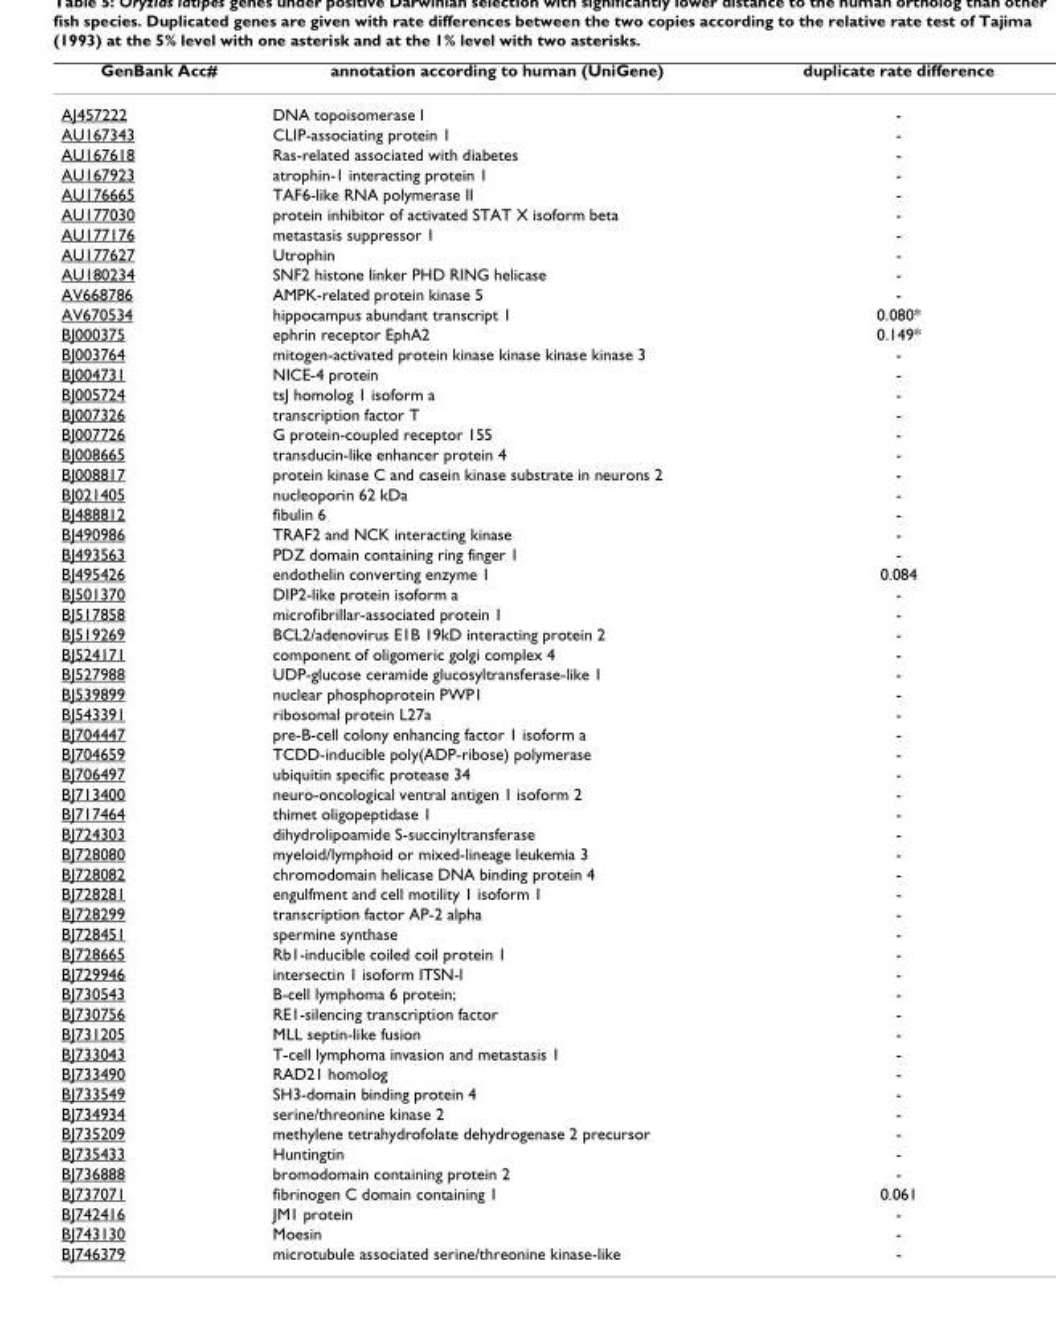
<table><thead><tr><td>GenBank Acc#</td><td>annotation according to human (UniGene)</td><td>duplicate rate difference</td></tr></thead><tbody><tr><td>AJ457222</td><td>DNA topoisomerase I</td><td>-</td></tr><tr><td>AU167343</td><td>CLIP-associating protein 1</td><td>-</td></tr><tr><td>AU167618</td><td>Ras-related associated with diabetes</td><td>-</td></tr><tr><td>AU167923</td><td>atrophin-1 interacting protein 1</td><td>-</td></tr><tr><td>AU176665</td><td>TAF6-like RNA polymerase II</td><td>-</td></tr><tr><td>AU177030</td><td>protein inhibitor of activated STAT X isoform beta</td><td>-</td></tr><tr><td>AU177176</td><td>metastasis suppressor 1</td><td>-</td></tr><tr><td>AU177627</td><td>Utrophin</td><td>-</td></tr><tr><td>AU180234</td><td>SNF2 histone linker PHD RING helicase</td><td>-</td></tr><tr><td>AV668786</td><td>AMPK-related protein kinase 5</td><td>-</td></tr><tr><td>AV670534</td><td>hippocampus abundant transcript 1</td><td>0.080*</td></tr><tr><td>BJ000375</td><td>ephrin receptor EphA2</td><td>0.149*</td></tr><tr><td>BJ003764</td><td>mitogen-activated protein kinase kinase kinase kinase 3</td><td>-</td></tr><tr><td>BJ004731</td><td>NICE-4 protein</td><td>-</td></tr><tr><td>BJ005724</td><td>tsJ homolog 1 isoform a</td><td>-</td></tr><tr><td>BJ007326</td><td>transcription factor T</td><td>-</td></tr><tr><td>BJ007726</td><td>G protein-coupled receptor 155</td><td>-</td></tr><tr><td>BJ008665</td><td>transducin-like enhancer protein 4</td><td>-</td></tr><tr><td>BJ008817</td><td>protein kinase C and casein kinase substrate in neurons 2</td><td>-</td></tr><tr><td>BJ021405</td><td>nucleoporin 62 kDa</td><td>-</td></tr><tr><td>BJ488812</td><td>fibulin 6</td><td>-</td></tr><tr><td>BJ490986</td><td>TRAF2 and NCK interacting kinase</td><td>-</td></tr><tr><td>BJ493563</td><td>PDZ domain containing ring finger 1</td><td>-</td></tr><tr><td>BJ495426</td><td>endothelin converting enzyme 1</td><td>0.084</td></tr><tr><td>BJ501370</td><td>DIP2-like protein isoform a</td><td>-</td></tr><tr><td>BJ517858</td><td>microfibrillar-associated protein 1</td><td>-</td></tr><tr><td>BJ519269</td><td>BCL2/adenovirus E1B 19kD interacting protein 2</td><td>-</td></tr><tr><td>BJ524171</td><td>component of oligomeric golgi complex 4</td><td>-</td></tr><tr><td>BJ527988</td><td>UDP-glucose ceramide glucosyltransferase-like 1</td><td>-</td></tr><tr><td>BJ539899</td><td>nuclear phosphoprotein PWP1</td><td>-</td></tr><tr><td>BJ543391</td><td>ribosomal protein L27a</td><td>-</td></tr><tr><td>BJ704447</td><td>pre-B-cell colony enhancing factor 1 isoform a</td><td>-</td></tr><tr><td>BJ704659</td><td>TCDD-inducible poly(ADP-ribose) polymerase</td><td>-</td></tr><tr><td>BJ706497</td><td>ubiquitin specific protease 34</td><td>-</td></tr><tr><td>BJ713400</td><td>neuro-oncological ventral antigen 1 isoform 2</td><td>-</td></tr><tr><td>BJ717464</td><td>thimet oligopeptidase 1</td><td>-</td></tr><tr><td>BJ724303</td><td>dihydrolipoamide S-succinyltransferase</td><td>-</td></tr><tr><td>BJ728080</td><td>myeloid/lymphoid or mixed-lineage leukemia 3</td><td>-</td></tr><tr><td>BJ728082</td><td>chromodomain helicase DNA binding protein 4</td><td>-</td></tr><tr><td>BJ728281</td><td>engulfment and cell motility 1 isoform 1</td><td>-</td></tr><tr><td>BJ728299</td><td>transcription factor AP-2 alpha</td><td>-</td></tr><tr><td>BJ728451</td><td>spermine synthase</td><td>-</td></tr><tr><td>BJ728665</td><td>Rb1-inducible coiled coil protein 1</td><td>-</td></tr><tr><td>BJ729946</td><td>intersectin 1 isoform ITSN-l</td><td>-</td></tr><tr><td>BJ730543</td><td>B-cell lymphoma 6 protein;</td><td>-</td></tr><tr><td>BJ730756</td><td>RE1-silencing transcription factor</td><td>-</td></tr><tr><td>BJ731205</td><td>MLL septin-like fusion</td><td>-</td></tr><tr><td>BJ733043</td><td>T-cell lymphoma invasion and metastasis 1</td><td>-</td></tr><tr><td>BJ733490</td><td>RAD21 homolog</td><td>-</td></tr><tr><td>BJ733549</td><td>SH3-domain binding protein 4</td><td>-</td></tr><tr><td>BJ734934</td><td>serine/threonine kinase 2</td><td>-</td></tr><tr><td>BJ735209</td><td>methylene tetrahydrofolate dehydrogenase 2 precursor</td><td>-</td></tr><tr><td>BJ735433</td><td>Huntingtin</td><td>-</td></tr><tr><td>BJ736888</td><td>bromodomain containing protein 2</td><td>-</td></tr><tr><td>BJ737071</td><td>fibrinogen C domain containing 1</td><td>0.061</td></tr><tr><td>BJ742416</td><td>JM1 protein</td><td>-</td></tr><tr><td>BJ743130</td><td>Moesin</td><td>-</td></tr><tr><td>BJ746379</td><td>microtubule associated serine/threonine kinase-like</td><td>-</td></tr></tbody></table>